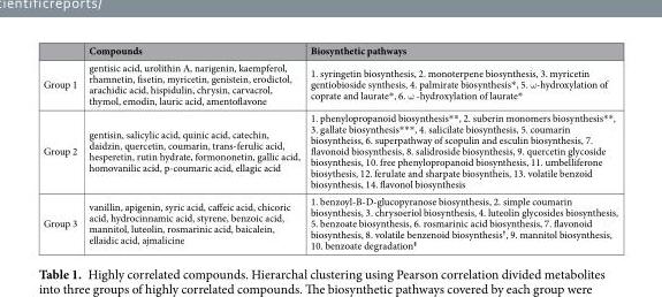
<table><thead><tr><td></td><td>Compounds</td><td>Biosynthetic pathways</td></tr></thead><tbody><tr><td>Group 1</td><td>gentisic acid, urolithin A, narigenin, kaempferol, rhamnetin, fisetin, myricetin, genistein, erodictol, arachidic acid, hispidulin, chrysin, carvacrol, thymol, emodin, lauric acid, amentoflavone</td><td>1. syringetin biosynthesis, 2. monoterpene biosynthesis, 3. myricetin gentiobioside synthesis, 4. palmirate biosynthesis*, 5. ω-hydroxylation of coprate and laurate*, 6. ω -hydroxylation of laurate*</td></tr><tr><td>Group 2</td><td>gentisin, salicylic acid, quinic acid, catechin, daidzin, quercetin, coumarin, trans-ferulic acid, hesperetin, rutin hydrate, formononetin, gallic acid, homovanilic acid, p-coumaric acid, ellagic acid</td><td>1. phenylopropanoid biosynthesis**, 2. suberin monomers biosynthesis**, 3. gallate biosynthesis***, 4. salicilate biosynthesis, 5. coumarin biosyntheiss, 6. superpathway of scopulin and esculin biosynthesis, 7. flavonoid biosynthesis, 8. salidroside biosynthesis, 9. quercetin glycoside biosynthesis, 10. free phenylopropanoid biosynthesis, 11. umbelliferone biosythesis, 12. ferulate and sharpate biosyntheis, 13. volatile benzoid biosynthesis, 14. flavonol biosynthesis</td></tr><tr><td>Group 3</td><td>vanillin, apigenin, syric acid, caffeic acid, chicoric acid, hydrocinnamic acid, styrene, benzoic acid, mannitol, luteolin, rosmarinic acid, baicalein, ellaidic acid, ajmalicine</td><td>1. benzoyl-B-D-glucopyranose biosynthesis, 2. simple coumarin biosynthesis, 3. chrysoeriol biosynthesis, 4. luteolin glycosides biosynthesis, 5. benzoate biosynthesis, 6. rosmarinic acid biosynthesis, 7. flavonoid biosynthesis, 8. volatile benzenoid biosynthesis<sup>†</sup>, 9. mannitol biosynthesis, 10. benzoate degradation<sup>‡</sup></td></tr></tbody></table>